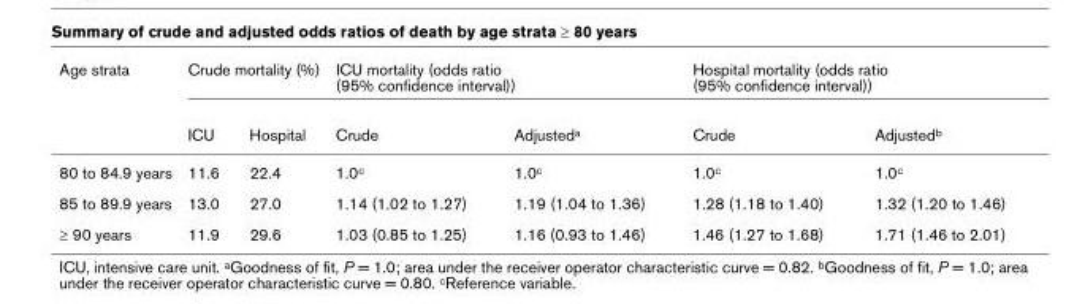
<table><thead><tr><td rowspan="2">Age strata</td><td colspan="2">Crude mortality (%)</td><td colspan="2">ICU mortality (odds ratio (95% confidence interval))</td><td colspan="2">Hospital mortality (odds ratio (95% confidence interval))</td></tr><tr><td>ICU</td><td>Hospital</td><td>Crude</td><td>Adjusted<sup>a</sup></td><td>Crude</td><td>Adjusted<sup>b</sup></td></tr></thead><tbody><tr><td>80 to 84.9 years</td><td>11.6</td><td>22.4</td><td>1.0<sup>c</sup></td><td>1.0<sup>c</sup></td><td>1.0<sup>c</sup></td><td>1.0<sup>c</sup></td></tr><tr><td>85 to 89.9 years</td><td>13.0</td><td>27.0</td><td>1.14 (1.02 to 1.27)</td><td>1.19 (1.04 to 1.36)</td><td>1.28 (1.18 to 1.40)</td><td>1.32 (1.20 to 1.46)</td></tr><tr><td>≥ 90 years</td><td>11.9</td><td>29.6</td><td>1.03 (0.85 to 1.25)</td><td>1.16 (0.93 to 1.46)</td><td>1.46 (1.27 to 1.68)</td><td>1.71 (1.46 to 2.01)</td></tr></tbody></table>